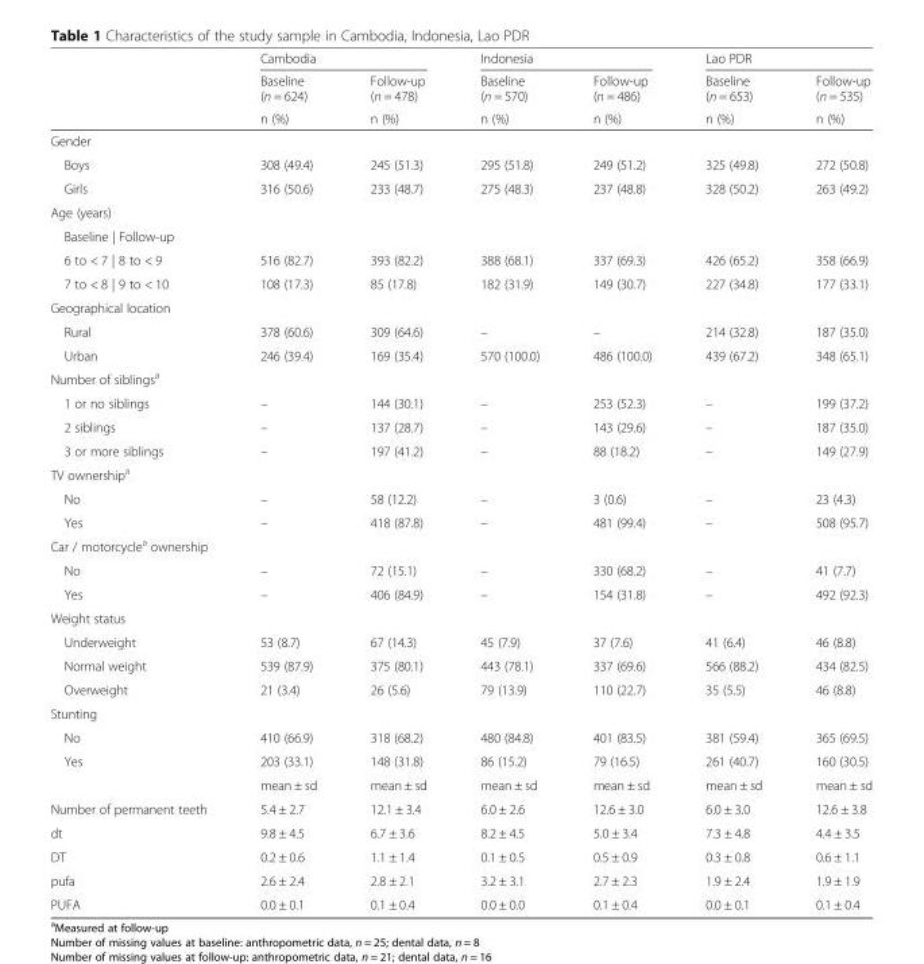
<table><thead><tr><td rowspan="3"></td><td colspan="2">Cambodia</td><td colspan="2">Indonesia</td><td colspan="2">Lao PDR</td></tr><tr><td rowspan="2">Baseline (n = 624) n (%)</td><td rowspan="2">Follow-up (n = 478) n (%)</td><td rowspan="2">Baseline (n = 570) n (%)</td><td rowspan="2">Follow-up (n = 486) n (%)</td><td rowspan="2">Baseline (n = 653) n (%)</td><td rowspan="2">Follow-up (n = 535) n (%)</td></tr><tr></tr></thead><tbody><tr><td colspan="7">Gender</td></tr><tr><td>Boys</td><td>308 (49.4)</td><td>245 (51.3)</td><td>295 (51.8)</td><td>249 (51.2)</td><td>325 (49.8)</td><td>272 (50.8)</td></tr><tr><td>Girls</td><td>316 (50.6)</td><td>233 (48.7)</td><td>275 (48.3)</td><td>237 (48.8)</td><td>328 (50.2)</td><td>263 (49.2)</td></tr><tr><td colspan="7">Age (years)</td></tr><tr><td colspan="7">Baseline | Follow-up</td></tr><tr><td>6 to &lt; 7 | 8 to &lt; 9</td><td>516 (82.7)</td><td>393 (82.2)</td><td>388 (68.1)</td><td>337 (69.3)</td><td>426 (65.2)</td><td>358 (66.9)</td></tr><tr><td>7 to &lt; 8 | 9 to &lt; 10</td><td>108 (17.3)</td><td>85 (17.8)</td><td>182 (31.9)</td><td>149 (30.7)</td><td>227 (34.8)</td><td>177 (33.1)</td></tr><tr><td colspan="7">Geographical location</td></tr><tr><td>Rural</td><td>378 (60.6)</td><td>309 (64.6)</td><td>–</td><td>–</td><td>214 (32.8)</td><td>187 (35.0)</td></tr><tr><td>Urban</td><td>246 (39.4)</td><td>169 (35.4)</td><td>570 (100.0)</td><td>486 (100.0)</td><td>439 (67.2)</td><td>348 (65.1)</td></tr><tr><td colspan="7">Number of siblings<sup>a</sup></td></tr><tr><td>1 or no siblings</td><td>–</td><td>144 (30.1)</td><td>–</td><td>253 (52.3)</td><td>–</td><td>199 (37.2)</td></tr><tr><td>2 siblings</td><td>–</td><td>137 (28.7)</td><td>–</td><td>143 (29.6)</td><td>–</td><td>187 (35.0)</td></tr><tr><td>3 or more siblings</td><td>–</td><td>197 (41.2)</td><td>–</td><td>88 (18.2)</td><td>–</td><td>149 (27.9)</td></tr><tr><td colspan="7">TV ownership<sup>a</sup></td></tr><tr><td>No</td><td>–</td><td>58 (12.2)</td><td>–</td><td>3 (0.6)</td><td>–</td><td>23 (4.3)</td></tr><tr><td>Yes</td><td>–</td><td>418 (87.8)</td><td>–</td><td>481 (99.4)</td><td>–</td><td>508 (95.7)</td></tr><tr><td colspan="7">Car / motorcycle<sup>a</sup> ownership</td></tr><tr><td>No</td><td>–</td><td>72 (15.1)</td><td>–</td><td>330 (68.2)</td><td>–</td><td>41 (7.7)</td></tr><tr><td>Yes</td><td>–</td><td>406 (84.9)</td><td>–</td><td>154 (31.8)</td><td>–</td><td>492 (92.3)</td></tr><tr><td colspan="7">Weight status</td></tr><tr><td>Underweight</td><td>53 (8.7)</td><td>67 (14.3)</td><td>45 (7.9)</td><td>37 (7.6)</td><td>41 (6.4)</td><td>46 (8.8)</td></tr><tr><td>Normal weight</td><td>539 (87.9)</td><td>375 (80.1)</td><td>443 (78.1)</td><td>337 (69.6)</td><td>566 (88.2)</td><td>434 (82.5)</td></tr><tr><td>Overweight</td><td>21 (3.4)</td><td>26 (5.6)</td><td>79 (13.9)</td><td>110 (22.7)</td><td>35 (5.5)</td><td>46 (8.8)</td></tr><tr><td colspan="7">Stunting</td></tr><tr><td>No</td><td>410 (66.9)</td><td>318 (68.2)</td><td>480 (84.8)</td><td>401 (83.5)</td><td>381 (59.4)</td><td>365 (69.5)</td></tr><tr><td rowspan="2">Yes</td><td>203 (33.1)</td><td>148 (31.8)</td><td>86 (15.2)</td><td>79 (16.5)</td><td>261 (40.7)</td><td>160 (30.5)</td></tr><tr><td>mean ± sd</td><td>mean ± sd</td><td>mean ± sd</td><td>mean ± sd</td><td>mean ± sd</td><td>mean ± sd</td></tr><tr><td>Number of permanent teeth</td><td>5.4 ± 2.7</td><td>12.1 ± 3.4</td><td>6.0 ± 2.6</td><td>12.6 ± 3.0</td><td>6.0 ± 3.0</td><td>12.6 ± 3.8</td></tr><tr><td>dt</td><td>9.8 ± 4.5</td><td>6.7 ± 3.6</td><td>8.2 ± 4.5</td><td>5.0 ± 3.4</td><td>7.3 ± 4.8</td><td>4.4 ± 3.5</td></tr><tr><td>DT</td><td>0.2 ± 0.6</td><td>1.1 ± 1.4</td><td>0.1 ± 0.5</td><td>0.5 ± 0.9</td><td>0.3 ± 0.8</td><td>0.6 ± 1.1</td></tr><tr><td>pufa</td><td>2.6 ± 2.4</td><td>2.8 ± 2.1</td><td>3.2 ± 3.1</td><td>2.7 ± 2.3</td><td>1.9 ± 2.4</td><td>1.9 ± 1.9</td></tr><tr><td>PUFA</td><td>0.0 ± 0.1</td><td>0.1 ± 0.4</td><td>0.0 ± 0.0</td><td>0.1 ± 0.4</td><td>0.0 ± 0.1</td><td>0.1 ± 0.4</td></tr></tbody></table>